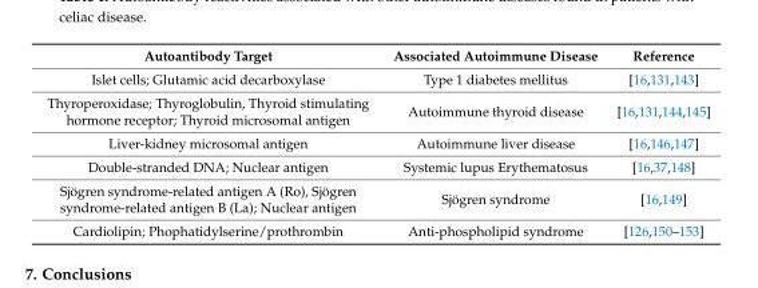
<table><thead><tr><td>Autoantibody Target</td><td>Associated Autoimmune Disease</td><td>Reference</td></tr></thead><tbody><tr><td>Islet cells; Glutamic acid decarboxylase</td><td>Type 1 diabetes mellitus</td><td>[16,131,143]</td></tr><tr><td>Thyroperoxidase; Thyroglobulin, Thyroid stimulating hormone receptor; Thyroid microsomal antigen</td><td>Autoimmune thyroid disease</td><td>[16,131,144,145]</td></tr><tr><td>Liver-kidney microsomal antigen</td><td>Autoimmune liver disease</td><td>[16,146,147]</td></tr><tr><td>Double-stranded DNA; Nuclear antigen</td><td>Systemic lupus Erythematosus</td><td>[16,37,148]</td></tr><tr><td>Sjögren syndrome-related antigen A (Ro), Sjögren syndrome-related antigen B (La); Nuclear antigen</td><td>Sjögren syndrome</td><td>[16,149]</td></tr><tr><td>Cardiolipin; Phophatidylserine/prothrombin</td><td>Anti-phospholipid syndrome</td><td>[126,150–153]</td></tr></tbody></table>